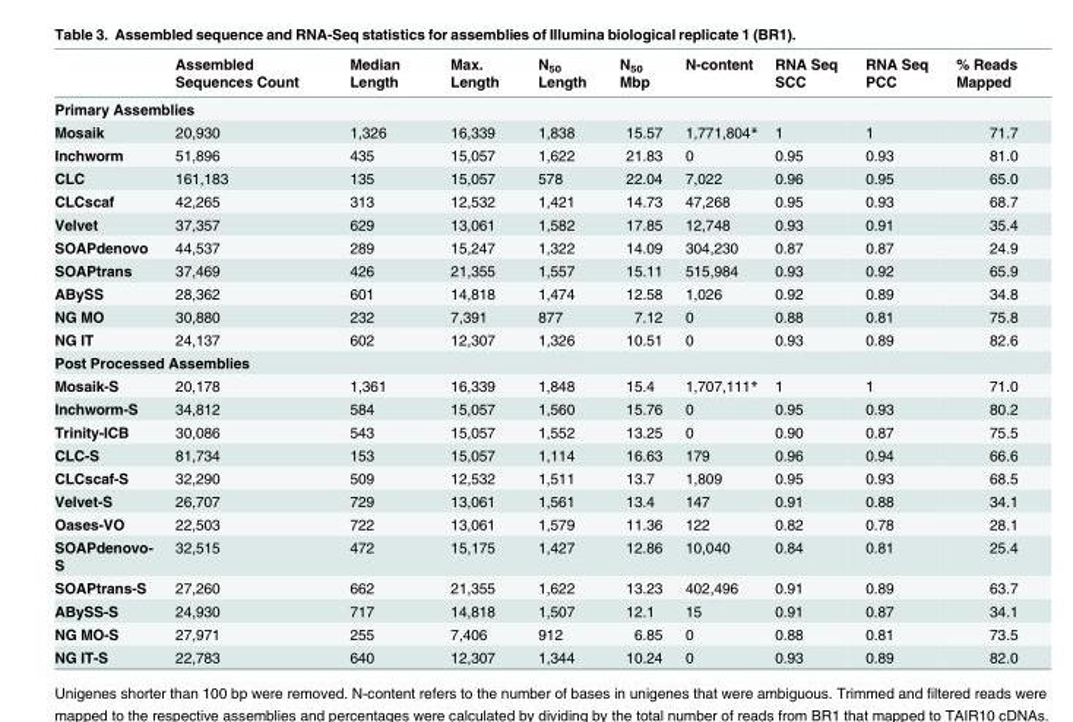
<table><thead><tr><td></td><td>Assembled Sequences Count</td><td>Median Length</td><td>Max. Length</td><td>N<sub>50</sub> Length</td><td>N<sub>50</sub> Mbp</td><td>N-content</td><td>RNA Seq SCC</td><td>RNA Seq PCC</td><td>% Reads Mapped</td></tr></thead><tbody><tr><td colspan="10">Primary Assemblies</td></tr><tr><td>Mosaik</td><td>20,930</td><td>1,326</td><td>16,339</td><td>1,838</td><td>15.57</td><td>1,771,804*</td><td>1</td><td>1</td><td>71.7</td></tr><tr><td>Inchworm</td><td>51,896</td><td>435</td><td>15,057</td><td>1,622</td><td>21.83</td><td>0</td><td>0.95</td><td>0.93</td><td>81.0</td></tr><tr><td>CLC</td><td>161,183</td><td>135</td><td>15,057</td><td>578</td><td>22.04</td><td>7,022</td><td>0.96</td><td>0.95</td><td>65.0</td></tr><tr><td>CLCscaf</td><td>42,265</td><td>313</td><td>12,532</td><td>1,421</td><td>14.73</td><td>47,268</td><td>0.95</td><td>0.93</td><td>68.7</td></tr><tr><td>Velvet</td><td>37,357</td><td>629</td><td>13,061</td><td>1,582</td><td>17.85</td><td>12,748</td><td>0.93</td><td>0.91</td><td>35.4</td></tr><tr><td>SOAPdenovo</td><td>44,537</td><td>289</td><td>15,247</td><td>1,322</td><td>14.09</td><td>304,230</td><td>0.87</td><td>0.87</td><td>24.9</td></tr><tr><td>SOAPtrans</td><td>37,469</td><td>426</td><td>21,355</td><td>1,557</td><td>15.11</td><td>515,984</td><td>0.93</td><td>0.92</td><td>65.9</td></tr><tr><td>ABySS</td><td>28,362</td><td>601</td><td>14,818</td><td>1,474</td><td>12.58</td><td>1,026</td><td>0.92</td><td>0.89</td><td>34.8</td></tr><tr><td>NG MO</td><td>30,880</td><td>232</td><td>7,391</td><td>877</td><td>7.12</td><td>0</td><td>0.88</td><td>0.81</td><td>75.8</td></tr><tr><td>NG IT</td><td>24,137</td><td>602</td><td>12,307</td><td>1,326</td><td>10.51</td><td>0</td><td>0.93</td><td>0.89</td><td>82.6</td></tr><tr><td colspan="10">Post Processed Assemblies</td></tr><tr><td>Mosaik-S</td><td>20,178</td><td>1,361</td><td>16,339</td><td>1,848</td><td>15.4</td><td>1,707,111*</td><td>1</td><td>1</td><td>71.0</td></tr><tr><td>Inchworm-S</td><td>34,812</td><td>584</td><td>15,057</td><td>1,560</td><td>15.76</td><td>0</td><td>0.95</td><td>0.93</td><td>80.2</td></tr><tr><td>Trinity-ICB</td><td>30,086</td><td>543</td><td>15,057</td><td>1,552</td><td>13.25</td><td>0</td><td>0.90</td><td>0.87</td><td>75.5</td></tr><tr><td>CLC-S</td><td>81,734</td><td>153</td><td>15,057</td><td>1,114</td><td>16.63</td><td>179</td><td>0.96</td><td>0.94</td><td>66.6</td></tr><tr><td>CLCscaf-S</td><td>32,290</td><td>509</td><td>12,532</td><td>1,511</td><td>13.7</td><td>1,809</td><td>0.95</td><td>0.93</td><td>68.5</td></tr><tr><td>Velvet-S</td><td>26,707</td><td>729</td><td>13,061</td><td>1,561</td><td>13.4</td><td>147</td><td>0.91</td><td>0.88</td><td>34.1</td></tr><tr><td>Oases-VO</td><td>22,503</td><td>722</td><td>13,061</td><td>1,579</td><td>11.36</td><td>122</td><td>0.82</td><td>0.78</td><td>28.1</td></tr><tr><td>SOAPdenovo- S</td><td>32,515</td><td>472</td><td>15,175</td><td>1,427</td><td>12.86</td><td>10,040</td><td>0.84</td><td>0.81</td><td>25.4</td></tr><tr><td>SOAPtrans-S</td><td>27,260</td><td>662</td><td>21,355</td><td>1,622</td><td>13.23</td><td>402,496</td><td>0.91</td><td>0.89</td><td>63.7</td></tr><tr><td>ABySS-S</td><td>24,930</td><td>717</td><td>14,818</td><td>1,507</td><td>12.1</td><td>15</td><td>0.91</td><td>0.87</td><td>34.1</td></tr><tr><td>NG MO-S</td><td>27,971</td><td>255</td><td>7,406</td><td>912</td><td>6.85</td><td>0</td><td>0.88</td><td>0.81</td><td>73.5</td></tr><tr><td>NG IT-S</td><td>22,783</td><td>640</td><td>12,307</td><td>1,344</td><td>10.24</td><td>0</td><td>0.93</td><td>0.89</td><td>82.0</td></tr></tbody></table>